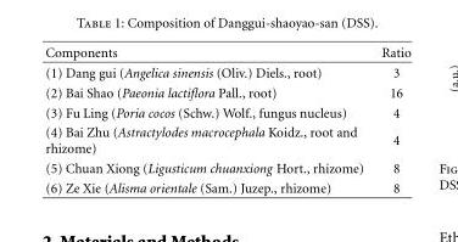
<table><thead><tr><td>Components</td><td>Ratio</td></tr></thead><tbody><tr><td>(1) Dang gui (Angelica sinensis (Oliv.) Diels., root)</td><td>3</td></tr><tr><td>(2) Bai Shao (Paeonia lactiflora Pall., root)</td><td>16</td></tr><tr><td>(3) Fu Ling (Poria cocos (Schw.) Wolf., fungus nucleus)</td><td>4</td></tr><tr><td>(4) Bai Zhu (Astractylodes macrocephala Koidz., root and rhizome)</td><td>4</td></tr><tr><td>(5) Chuan Xiong (Ligusticum chuanxiong Hort., rhizome)</td><td>8</td></tr><tr><td>(6) Ze Xie (Alisma orientale (Sam.) Juzep., rhizome)</td><td>8</td></tr></tbody></table>